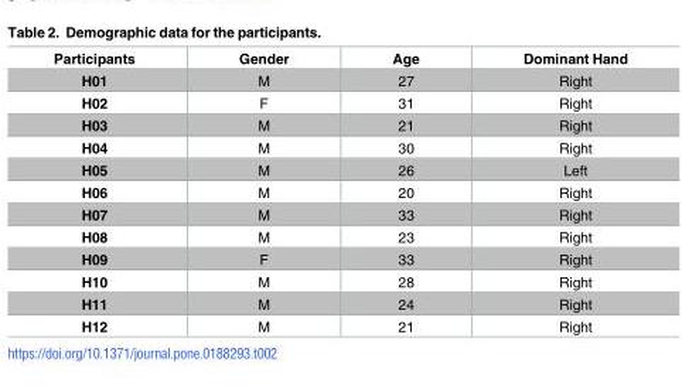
<table><thead><tr><td>Participants</td><td>Gender</td><td>Age</td><td>Dominant Hand</td></tr></thead><tbody><tr><td>H01</td><td>M</td><td>27</td><td>Right</td></tr><tr><td>H02</td><td>F</td><td>31</td><td>Right</td></tr><tr><td>H03</td><td>M</td><td>21</td><td>Right</td></tr><tr><td>H04</td><td>M</td><td>30</td><td>Right</td></tr><tr><td>H05</td><td>M</td><td>26</td><td>Left</td></tr><tr><td>H06</td><td>M</td><td>20</td><td>Right</td></tr><tr><td>H07</td><td>M</td><td>33</td><td>Right</td></tr><tr><td>H08</td><td>M</td><td>23</td><td>Right</td></tr><tr><td>H09</td><td>F</td><td>33</td><td>Right</td></tr><tr><td>H10</td><td>M</td><td>28</td><td>Right</td></tr><tr><td>H11</td><td>M</td><td>24</td><td>Right</td></tr><tr><td>H12</td><td>M</td><td>21</td><td>Right</td></tr></tbody></table>